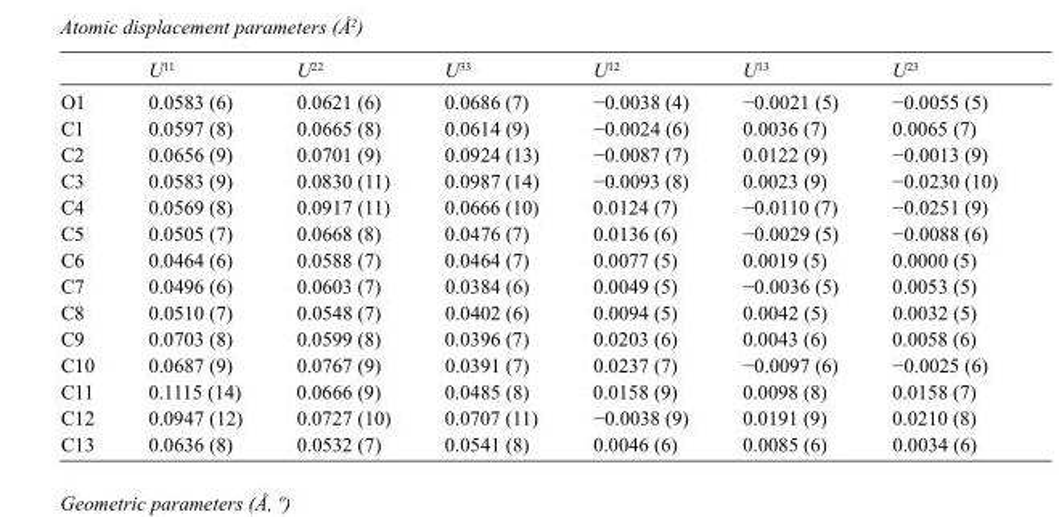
<table><thead><tr><td></td><td>U<sup>11</sup></td><td>U<sup>22</sup></td><td>U<sup>33</sup></td><td>U<sup>12</sup></td><td>U<sup>13</sup></td><td>U<sup>23</sup></td></tr></thead><tbody><tr><td>O1</td><td>0.0583 (6)</td><td>0.0621 (6)</td><td>0.0686 (7)</td><td>−0.0038 (4)</td><td>−0.0021 (5)</td><td>−0.0055 (5)</td></tr><tr><td>C1</td><td>0.0597 (8)</td><td>0.0665 (8)</td><td>0.0614 (9)</td><td>−0.0024 (6)</td><td>0.0036 (7)</td><td>0.0065 (7)</td></tr><tr><td>C2</td><td>0.0656 (9)</td><td>0.0701 (9)</td><td>0.0924 (13)</td><td>−0.0087 (7)</td><td>0.0122 (9)</td><td>−0.0013 (9)</td></tr><tr><td>C3</td><td>0.0583 (9)</td><td>0.0830 (11)</td><td>0.0987 (14)</td><td>−0.0093 (8)</td><td>0.0023 (9)</td><td>−0.0230 (10)</td></tr><tr><td>C4</td><td>0.0569 (8)</td><td>0.0917 (11)</td><td>0.0666 (10)</td><td>0.0124 (7)</td><td>−0.0110 (7)</td><td>−0.0251 (9)</td></tr><tr><td>C5</td><td>0.0505 (7)</td><td>0.0668 (8)</td><td>0.0476 (7)</td><td>0.0136 (6)</td><td>−0.0029 (5)</td><td>−0.0088 (6)</td></tr><tr><td>C6</td><td>0.0464 (6)</td><td>0.0588 (7)</td><td>0.0464 (7)</td><td>0.0077 (5)</td><td>0.0019 (5)</td><td>0.0000 (5)</td></tr><tr><td>C7</td><td>0.0496 (6)</td><td>0.0603 (7)</td><td>0.0384 (6)</td><td>0.0049 (5)</td><td>−0.0036 (5)</td><td>0.0053 (5)</td></tr><tr><td>C8</td><td>0.0510 (7)</td><td>0.0548 (7)</td><td>0.0402 (6)</td><td>0.0094 (5)</td><td>0.0042 (5)</td><td>0.0032 (5)</td></tr><tr><td>C9</td><td>0.0703 (8)</td><td>0.0599 (8)</td><td>0.0396 (7)</td><td>0.0203 (6)</td><td>0.0043 (6)</td><td>0.0058 (6)</td></tr><tr><td>C10</td><td>0.0687 (9)</td><td>0.0767 (9)</td><td>0.0391 (7)</td><td>0.0237 (7)</td><td>−0.0097 (6)</td><td>−0.0025 (6)</td></tr><tr><td>C11</td><td>0.1115 (14)</td><td>0.0666 (9)</td><td>0.0485 (8)</td><td>0.0158 (9)</td><td>0.0098 (8)</td><td>0.0158 (7)</td></tr><tr><td>C12</td><td>0.0947 (12)</td><td>0.0727 (10)</td><td>0.0707 (11)</td><td>−0.0038 (9)</td><td>0.0191 (9)</td><td>0.0210 (8)</td></tr><tr><td>C13</td><td>0.0636 (8)</td><td>0.0532 (7)</td><td>0.0541 (8)</td><td>0.0046 (6)</td><td>0.0085 (6)</td><td>0.0034 (6)</td></tr></tbody></table>